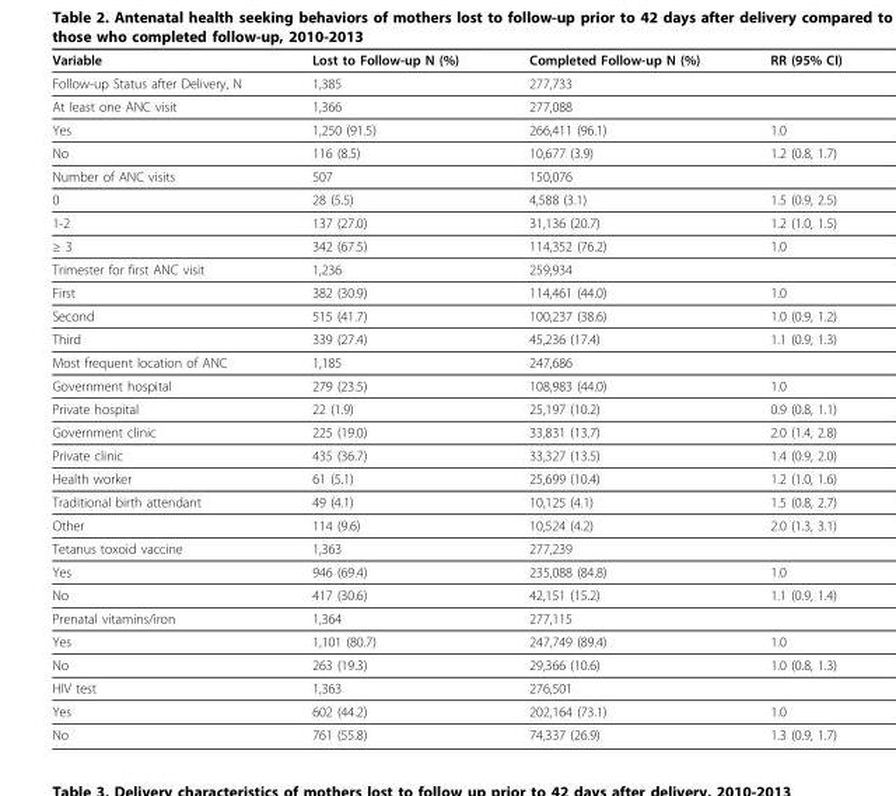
<table><thead><tr><td>Variable</td><td>Lost to Follow-up N (%)</td><td>Completed Follow-up N (%)</td><td>RR (95% CI)</td></tr></thead><tbody><tr><td>Follow-up Status after Delivery, N</td><td>1,385</td><td>277,733</td><td></td></tr><tr><td>At least one ANC visit</td><td>1,366</td><td>277,088</td><td></td></tr><tr><td>Yes</td><td>1,250 (91.5)</td><td>266,411 (96.1)</td><td>1.0</td></tr><tr><td>No</td><td>116 (8.5)</td><td>10,677 (3.9)</td><td>1.2 (0.8, 1.7)</td></tr><tr><td>Number of ANC visits</td><td>507</td><td>150,076</td><td></td></tr><tr><td>0</td><td>28 (5.5)</td><td>4,588 (3.1)</td><td>1.5 (0.9, 2.5)</td></tr><tr><td>1-2</td><td>137 (27.0)</td><td>31,136 (20.7)</td><td>1.2 (1.0, 1.5)</td></tr><tr><td>≥ 3</td><td>342 (67.5)</td><td>114,352 (76.2)</td><td>1.0</td></tr><tr><td>Trimester for first ANC visit</td><td>1,236</td><td>259,934</td><td></td></tr><tr><td>First</td><td>382 (30.9)</td><td>114,461 (44.0)</td><td>1.0</td></tr><tr><td>Second</td><td>515 (41.7)</td><td>100,237 (38.6)</td><td>1.0 (0.9, 1.2)</td></tr><tr><td>Third</td><td>339 (27.4)</td><td>45,236 (17.4)</td><td>1.1 (0.9, 1.3)</td></tr><tr><td>Most frequent location of ANC</td><td>1,185</td><td>247,686</td><td></td></tr><tr><td>Government hospital</td><td>279 (23.5)</td><td>108,983 (44.0)</td><td>1.0</td></tr><tr><td>Private hospital</td><td>22 (1.9)</td><td>25,197 (10.2)</td><td>0.9 (0.8, 1.1)</td></tr><tr><td>Government clinic</td><td>225 (19.0)</td><td>33,831 (13.7)</td><td>2.0 (1.4, 2.8)</td></tr><tr><td>Private clinic</td><td>435 (36.7)</td><td>33,327 (13.5)</td><td>1.4 (0.9, 2.0)</td></tr><tr><td>Health worker</td><td>61 (5.1)</td><td>25,699 (10.4)</td><td>1.2 (1.0, 1.6)</td></tr><tr><td>Traditional birth attendant</td><td>49 (4.1)</td><td>10,125 (4.1)</td><td>1.5 (0.8, 2.7)</td></tr><tr><td>Other</td><td>114 (9.6)</td><td>10,524 (4.2)</td><td>2.0 (1.3, 3.1)</td></tr><tr><td>Tetanus toxoid vaccine</td><td>1,363</td><td>277,239</td><td></td></tr><tr><td>Yes</td><td>946 (69.4)</td><td>235,088 (84.8)</td><td>1.0</td></tr><tr><td>No</td><td>417 (30.6)</td><td>42,151 (15.2)</td><td>1.1 (0.9, 1.4)</td></tr><tr><td>Prenatal vitamins/iron</td><td>1,364</td><td>277,115</td><td></td></tr><tr><td>Yes</td><td>1,101 (80.7)</td><td>247,749 (89.4)</td><td>1.0</td></tr><tr><td>No</td><td>263 (19.3)</td><td>29,366 (10.6)</td><td>1.0 (0.8, 1.3)</td></tr><tr><td>HIV test</td><td>1,363</td><td>276,501</td><td></td></tr><tr><td>Yes</td><td>602 (44.2)</td><td>202,164 (73.1)</td><td>1.0</td></tr><tr><td>No</td><td>761 (55.8)</td><td>74,337 (26.9)</td><td>1.3 (0.9, 1.7)</td></tr></tbody></table>